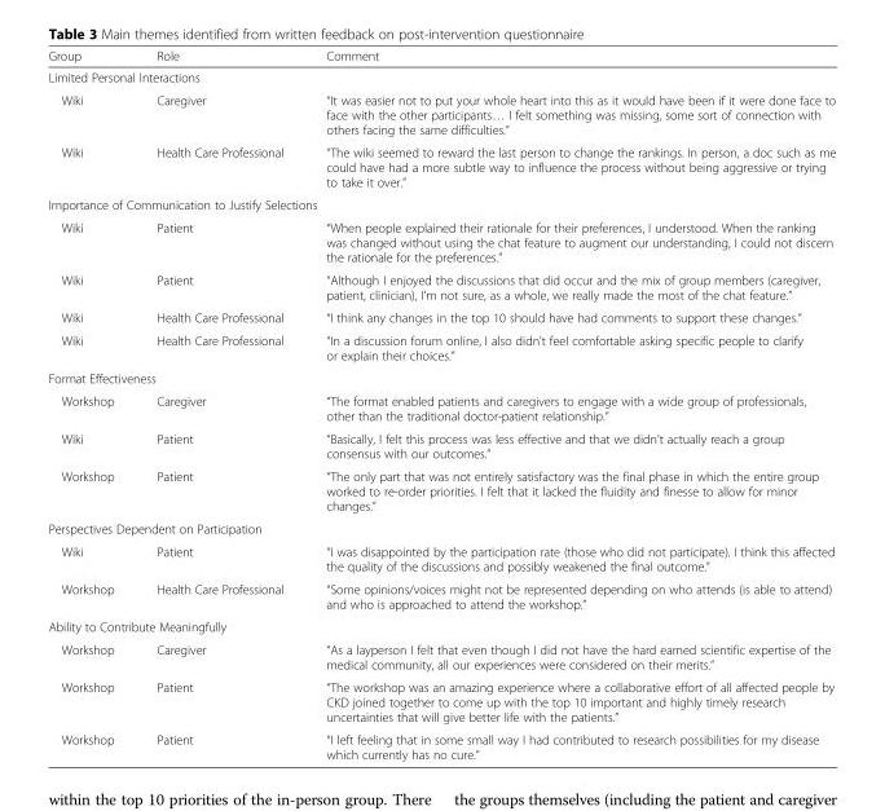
<table><thead><tr><td>Group</td><td>Role</td><td>Comment</td></tr></thead><tbody><tr><td colspan="3">Limited Personal Interactions</td></tr><tr><td>Wiki</td><td>Caregiver</td><td>“It was easier not to put your whole heart into this as it would have been if it were done face to face with the other participants… I felt something was missing, some sort of connection with others facing the same difficulties.”</td></tr><tr><td>Wiki</td><td>Health Care Professional</td><td>“The wiki seemed to reward the last person to change the rankings. In person, a doc such as me could have had a more subtle way to influence the process without being aggressive or trying to take it over.”</td></tr><tr><td colspan="3">Importance of Communication to Justify Selections</td></tr><tr><td>Wiki</td><td>Patient</td><td>“When people explained their rationale for their preferences, I understood. When the ranking was changed without using the chat feature to augment our understanding, I could not discern the rationale for the preferences.”</td></tr><tr><td>Wiki</td><td>Patient</td><td>“Although I enjoyed the discussions that did occur and the mix of group members (caregiver, patient, clinician), I&#x27;m not sure, as a whole, we really made the most of the chat feature.”</td></tr><tr><td>Wiki</td><td>Health Care Professional</td><td>“I think any changes in the top 10 should have had comments to support these changes.”</td></tr><tr><td>Wiki</td><td>Health Care Professional</td><td>“In a discussion forum online, I also didn&#x27;t feel comfortable asking specific people to clarify or explain their choices.”</td></tr><tr><td colspan="3">Format Effectiveness</td></tr><tr><td>Workshop</td><td>Caregiver</td><td>“The format enabled patients and caregivers to engage with a wide group of professionals, other than the traditional doctor-patient relationship.”</td></tr><tr><td>Wiki</td><td>Patient</td><td>“Basically, I felt this process was less effective and that we didn&#x27;t actually reach a group consensus with our outcomes.”</td></tr><tr><td>Workshop</td><td>Patient</td><td>“The only part that was not entirely satisfactory was the final phase in which the entire group worked to re-order priorities. I felt that it lacked the fluidity and finesse to allow for minor changes.”</td></tr><tr><td colspan="3">Perspectives Dependent on Participation</td></tr><tr><td>Wiki</td><td>Patient</td><td>“I was disappointed by the participation rate (those who did not participate). I think this affected the quality of the discussions and possibly weakened the final outcome.”</td></tr><tr><td>Workshop</td><td>Health Care Professional</td><td>“Some opinions/voices might not be represented depending on who attends (is able to attend) and who is approached to attend the workshop.”</td></tr><tr><td colspan="3">Ability to Contribute Meaningfully</td></tr><tr><td>Workshop</td><td>Caregiver</td><td>“As a layperson I felt that even though I did not have the hard earned scientific expertise of the medical community, all our experiences were considered on their merits.”</td></tr><tr><td>Workshop</td><td>Patient</td><td>“The workshop was an amazing experience where a collaborative effort of all affected people by CKD joined together to come up with the top 10 important and highly timely research uncertainties that will give better life with the patients.”</td></tr><tr><td>Workshop</td><td>Patient</td><td>“I left feeling that in some small way I had contributed to research possibilities for my disease which currently has no cure.”</td></tr></tbody></table>